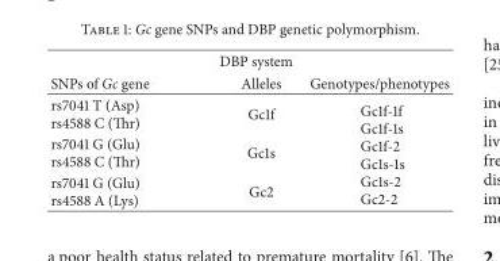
<table><thead><tr><td colspan="3">DBP system</td></tr><tr><td>SNPs of Gc gene</td><td>Alleles</td><td>Genotypes/phenotypes</td></tr></thead><tbody><tr><td>rs7041 T (Asp) rs4588 C (Thr)</td><td>Gc1f</td><td rowspan="3">Gc1f-1f Gc1f-1s Gc1f-2 Gc1s-1s Gc1s-2 Gc2-2</td></tr><tr><td>rs7041 G (Glu) rs4588 C (Thr)</td><td>Gc1s</td></tr><tr><td>rs7041 G (Glu) rs4588 A (Lys)</td><td>Gc2</td></tr></tbody></table>